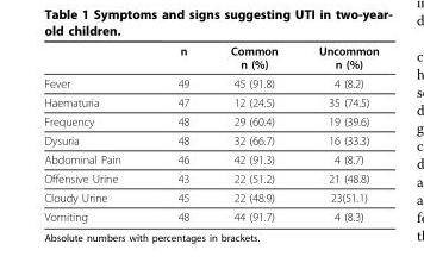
<table><thead><tr><td></td><td>n</td><td>Common n (%)</td><td>Uncommon n (%)</td></tr></thead><tbody><tr><td>Fever</td><td>49</td><td>45 (91.8)</td><td>4 (8.2)</td></tr><tr><td>Haematuria</td><td>47</td><td>12 (24.5)</td><td>35 (74.5)</td></tr><tr><td>Frequency</td><td>48</td><td>29 (60.4)</td><td>19 (39.6)</td></tr><tr><td>Dysuria</td><td>48</td><td>32 (66.7)</td><td>16 (33.3)</td></tr><tr><td>Abdominal Pain</td><td>46</td><td>42 (91.3)</td><td>4 (8.7)</td></tr><tr><td>Offensive Urine</td><td>43</td><td>22 (51.2)</td><td>21 (48.8)</td></tr><tr><td>Cloudy Urine</td><td>45</td><td>22 (48.9)</td><td>23(51.1)</td></tr><tr><td>Vomiting</td><td>48</td><td>44 (91.7)</td><td>4 (8.3)</td></tr></tbody></table>